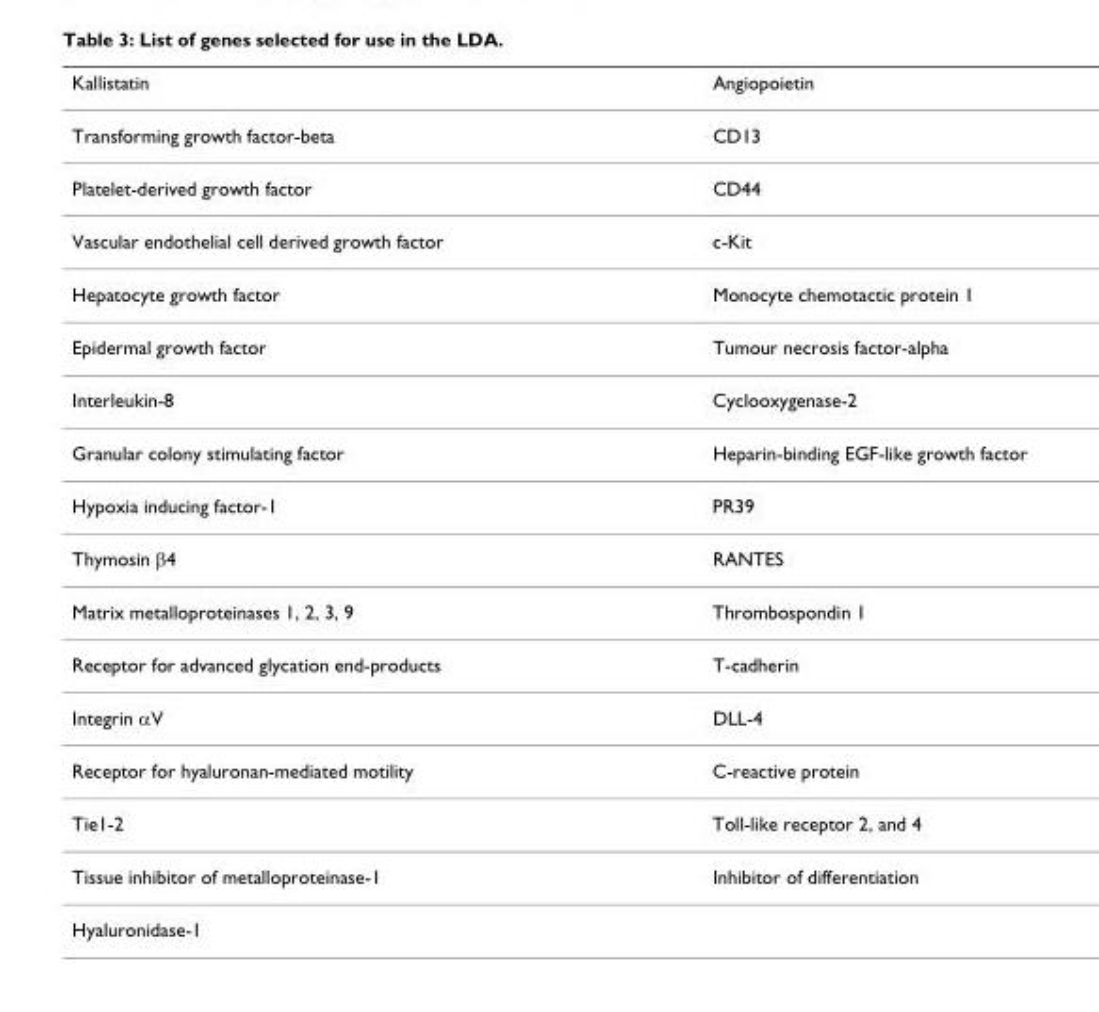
<table><thead><tr><td>Kallistatin</td><td>Angiopoietin</td></tr></thead><tbody><tr><td>Transforming growth factor-beta</td><td>CD13</td></tr><tr><td>Platelet-derived growth factor</td><td>CD44</td></tr><tr><td>Vascular endothelial cell derived growth factor</td><td>c-Kit</td></tr><tr><td>Hepatocyte growth factor</td><td>Monocyte chemotactic protein 1</td></tr><tr><td>Epidermal growth factor</td><td>Tumour necrosis factor-alpha</td></tr><tr><td>Interleukin-8</td><td>Cyclooxygenase-2</td></tr><tr><td>Granular colony stimulating factor</td><td>Heparin-binding EGF-like growth factor</td></tr><tr><td>Hypoxia inducing factor-1</td><td>PR39</td></tr><tr><td>Thymosin β4</td><td>RANTES</td></tr><tr><td>Matrix metalloproteinases 1, 2, 3, 9</td><td>Thrombospondin 1</td></tr><tr><td>Receptor for advanced glycation end-products</td><td>T-cadherin</td></tr><tr><td>Integrin αV</td><td>DLL-4</td></tr><tr><td>Receptor for hyaluronan-mediated motility</td><td>C-reactive protein</td></tr><tr><td>Tie1-2</td><td>Toll-like receptor 2, and 4</td></tr><tr><td>Tissue inhibitor of metalloproteinase-1</td><td>Inhibitor of differentiation</td></tr><tr><td>Hyaluronidase-1</td><td></td></tr></tbody></table>